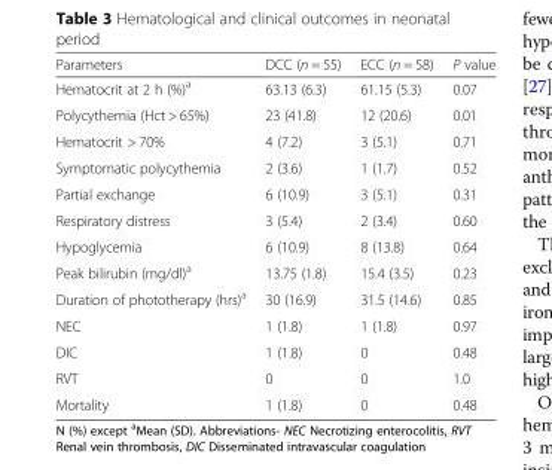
<table><thead><tr><td>Parameters</td><td>DCC (n = 55)</td><td>ECC (n = 58)</td><td>P value</td></tr></thead><tbody><tr><td>Hematocrit at 2 h (%)<sup>a</sup></td><td>63.13 (6.3)</td><td>61.15 (5.3)</td><td>0.07</td></tr><tr><td>Polycythemia (Hct &gt; 65%)</td><td>23 (41.8)</td><td>12 (20.6)</td><td>0.01</td></tr><tr><td>Hematocrit &gt; 70%</td><td>4 (7.2)</td><td>3 (5.1)</td><td>0.71</td></tr><tr><td>Symptomatic polycythemia</td><td>2 (3.6)</td><td>1 (1.7)</td><td>0.52</td></tr><tr><td>Partial exchange</td><td>6 (10.9)</td><td>3 (5.1)</td><td>0.31</td></tr><tr><td>Respiratory distress</td><td>3 (5.4)</td><td>2 (3.4)</td><td>0.60</td></tr><tr><td>Hypoglycemia</td><td>6 (10.9)</td><td>8 (13.8)</td><td>0.64</td></tr><tr><td>Peak bilirubin (mg/dl)<sup>a</sup></td><td>13.75 (1.8)</td><td>15.4 (3.5)</td><td>0.23</td></tr><tr><td>Duration of phototherapy (hrs)<sup>a</sup></td><td>30 (16.9)</td><td>31.5 (14.6)</td><td>0.85</td></tr><tr><td>NEC</td><td>1 (1.8)</td><td>1 (1.8)</td><td>0.97</td></tr><tr><td>DIC</td><td>1 (1.8)</td><td>0</td><td>0.48</td></tr><tr><td>RVT</td><td>0</td><td>0</td><td>1.0</td></tr><tr><td>Mortality</td><td>1 (1.8)</td><td>0</td><td>0.48</td></tr></tbody></table>